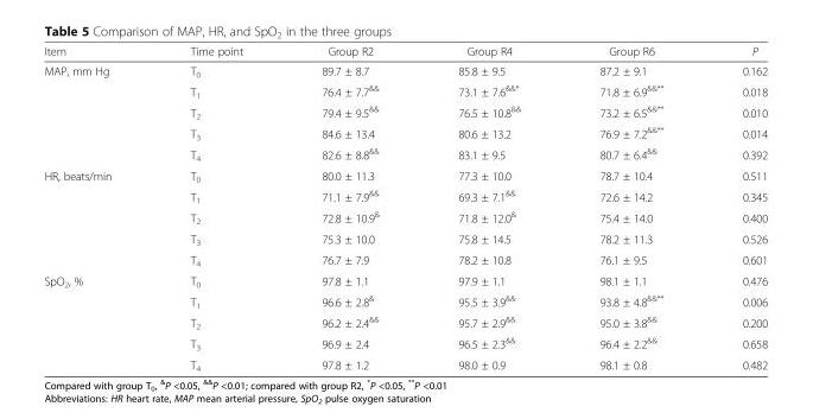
<table><thead><tr><td>Item</td><td>Time point</td><td>Group R2</td><td>Group R4</td><td>Group R6</td><td>P</td></tr></thead><tbody><tr><td rowspan="5">MAP, mm Hg</td><td>T<sub>0</sub></td><td>89.7 ± 8.7</td><td>85.8 ± 9.5</td><td>87.2 ± 9.1</td><td>0.162</td></tr><tr><td>T<sub>1</sub></td><td>76.4 ± 7.7<sup>&amp;&amp;</sup></td><td>73.1 ± 7.6<sup>&amp;&amp;*</sup></td><td>71.8 ± 6.9<sup>&amp;&amp;**</sup></td><td>0.018</td></tr><tr><td>T<sub>2</sub></td><td>79.4 ± 9.5<sup>&amp;&amp;</sup></td><td>76.5 ± 10.8<sup>&amp;&amp;</sup></td><td>73.2 ± 6.5<sup>&amp;&amp;**</sup></td><td>0.010</td></tr><tr><td>T<sub>3</sub></td><td>84.6 ± 13.4</td><td>80.6 ± 13.2</td><td>76.9 ± 7.2<sup>&amp;&amp;**</sup></td><td>0.014</td></tr><tr><td>T<sub>4</sub></td><td>82.6 ± 8.8<sup>&amp;&amp;</sup></td><td>83.1 ± 9.5</td><td>80.7 ± 6.4<sup>&amp;&amp;</sup></td><td>0.392</td></tr><tr><td rowspan="5">HR, beats/min</td><td>T<sub>0</sub></td><td>80.0 ± 11.3</td><td>77.3 ± 10.0</td><td>78.7 ± 10.4</td><td>0.511</td></tr><tr><td>T<sub>1</sub></td><td>71.1 ± 7.9<sup>&amp;&amp;</sup></td><td>69.3 ± 7.1<sup>&amp;&amp;</sup></td><td>72.6 ± 14.2</td><td>0.345</td></tr><tr><td>T<sub>2</sub></td><td>72.8 ± 10.9<sup>&amp;</sup></td><td>71.8 ± 12.0<sup>&amp;</sup></td><td>75.4 ± 14.0</td><td>0.400</td></tr><tr><td>T<sub>3</sub></td><td>75.3 ± 10.0</td><td>75.8 ± 14.5</td><td>78.2 ± 11.3</td><td>0.526</td></tr><tr><td>T<sub>4</sub></td><td>76.7 ± 7.9</td><td>78.2 ± 10.8</td><td>76.1 ± 9.5</td><td>0.601</td></tr><tr><td rowspan="5">SpO<sub>2</sub>, %</td><td>T<sub>0</sub></td><td>97.8 ± 1.1</td><td>97.9 ± 1.1</td><td>98.1 ± 1.1</td><td>0.476</td></tr><tr><td>T<sub>1</sub></td><td>96.6 ± 2.8<sup>&amp;</sup></td><td>95.5 ± 3.9<sup>&amp;&amp;</sup></td><td>93.8 ± 4.8<sup>&amp;&amp;**</sup></td><td>0.006</td></tr><tr><td>T<sub>2</sub></td><td>96.2 ± 2.4<sup>&amp;&amp;</sup></td><td>95.7 ± 2.9<sup>&amp;&amp;</sup></td><td>95.0 ± 3.8<sup>&amp;&amp;</sup></td><td>0.200</td></tr><tr><td>T<sub>3</sub></td><td>96.9 ± 2.4</td><td>96.5 ± 2.3<sup>&amp;&amp;</sup></td><td>96.4 ± 2.2<sup>&amp;&amp;</sup></td><td>0.658</td></tr><tr><td>T<sub>4</sub></td><td>97.8 ± 1.2</td><td>98.0 ± 0.9</td><td>98.1 ± 0.8</td><td>0.482</td></tr></tbody></table>